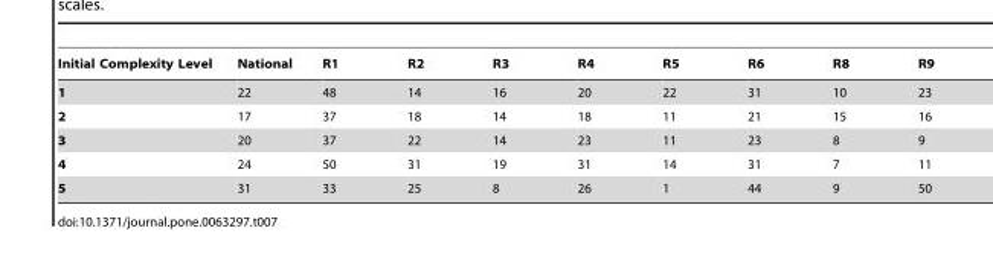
<table><thead><tr><td>Initial Complexity Level</td><td>National</td><td>R1</td><td>R2</td><td>R3</td><td>R4</td><td>R5</td><td>R6</td><td>R8</td><td>R9</td></tr></thead><tbody><tr><td>1</td><td>22</td><td>48</td><td>14</td><td>16</td><td>20</td><td>22</td><td>31</td><td>10</td><td>23</td></tr><tr><td>2</td><td>17</td><td>37</td><td>18</td><td>14</td><td>18</td><td>11</td><td>21</td><td>15</td><td>16</td></tr><tr><td>3</td><td>20</td><td>37</td><td>22</td><td>14</td><td>23</td><td>11</td><td>23</td><td>8</td><td>9</td></tr><tr><td>4</td><td>24</td><td>50</td><td>31</td><td>19</td><td>31</td><td>14</td><td>31</td><td>7</td><td>11</td></tr><tr><td>5</td><td>31</td><td>33</td><td>25</td><td>8</td><td>26</td><td>1</td><td>44</td><td>9</td><td>50</td></tr></tbody></table>